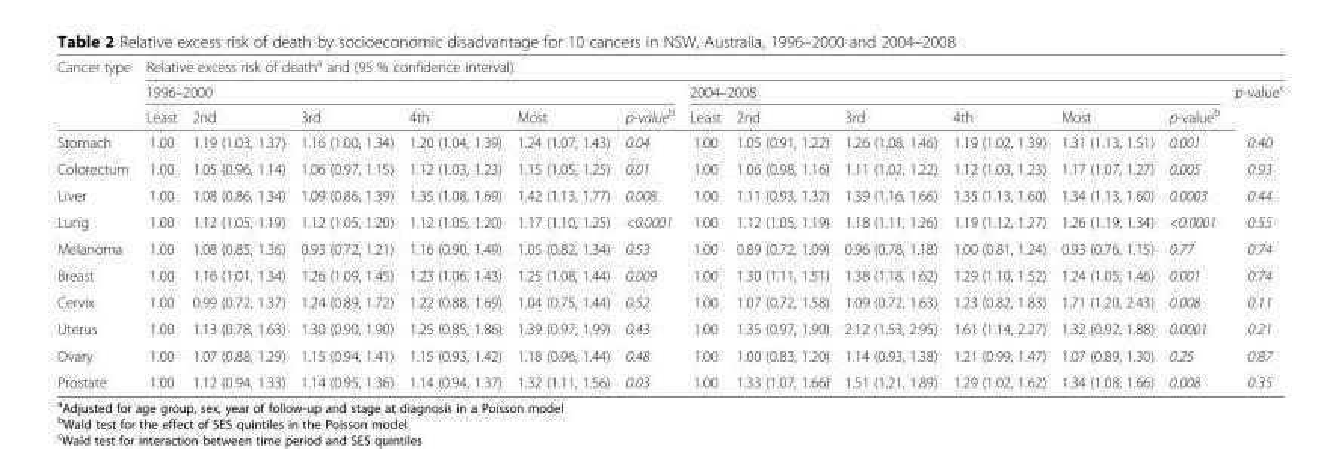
<table><thead><tr><td rowspan="3">Cancer type</td><td colspan="13">Relative excess risk of death<sup>a</sup> and (95 % confidence interval)</td></tr><tr><td colspan="6">1996–2000</td><td colspan="6">2004–2008</td><td rowspan="2">p-value<sup>c</sup></td></tr><tr><td>Least</td><td>2nd</td><td>3rd</td><td>4th</td><td>Most</td><td>p-value<sup>b</sup></td><td>Least</td><td>2nd</td><td>3rd</td><td>4th</td><td>Most</td><td>p-value<sup>b</sup></td></tr></thead><tbody><tr><td>Stomach</td><td>1.00</td><td>1.19 (1.03, 1.37)</td><td>1.16 (1.00, 1.34)</td><td>1.20 (1.04, 1.39)</td><td>1.24 (1.07, 1.43)</td><td>0.04</td><td>1.00</td><td>1.05 (0.91, 1.22)</td><td>1.26 (1.08, 1.46)</td><td>1.19 (1.02, 1.39)</td><td>1.31 (1.13, 1.51)</td><td>0.001</td><td>0.40</td></tr><tr><td>Colorectum</td><td>1.00</td><td>1.05 (0.96, 1.14)</td><td>1.06 (0.97, 1.15)</td><td>1.12 (1.03, 1.23)</td><td>1.15 (1.05, 1.25)</td><td>0.01</td><td>1.00</td><td>1.06 (0.98, 1.16)</td><td>1.11 (1.02, 1.22)</td><td>1.12 (1.03, 1.23)</td><td>1.17 (1.07, 1.27)</td><td>0.005</td><td>0.93</td></tr><tr><td>Liver</td><td>1.00</td><td>1.08 (0.86, 1.34)</td><td>1.09 (0.86, 1.39)</td><td>1.35 (1.08, 1.69)</td><td>1.42 (1.13, 1.77)</td><td>0.008</td><td>1.00</td><td>1.11 (0.93, 1.32)</td><td>1.39 (1.16, 1.66)</td><td>1.35 (1.13, 1.60)</td><td>1.34 (1.13, 1.60)</td><td>0.0003</td><td>0.44</td></tr><tr><td>Lung</td><td>1.00</td><td>1.12 (1.05, 1.19)</td><td>1.12 (1.05, 1.20)</td><td>1.12 (1.05, 1.20)</td><td>1.17 (1.10, 1.25)</td><td>&lt;0.0001</td><td>1.00</td><td>1.12 (1.05, 1.19)</td><td>1.18 (1.11, 1.26)</td><td>1.19 (1.12, 1.27)</td><td>1.26 (1.19, 1.34)</td><td>&lt;0.0001</td><td>0.55</td></tr><tr><td>Melanoma</td><td>1.00</td><td>1.08 (0.85, 1.36)</td><td>0.93 (0.72, 1.21)</td><td>1.16 (0.90, 1.49)</td><td>1.05 (0.82, 1.34)</td><td>0.53</td><td>1.00</td><td>0.89 (0.72, 1.09)</td><td>0.96 (0.78, 1.18)</td><td>1.00 (0.81, 1.24)</td><td>0.93 (0.76, 1.15)</td><td>0.77</td><td>0.74</td></tr><tr><td>Breast</td><td>1.00</td><td>1.16 (1.01, 1.34)</td><td>1.26 (1.09, 1.45)</td><td>1.23 (1.06, 1.43)</td><td>1.25 (1.08, 1.44)</td><td>0.009</td><td>1.00</td><td>1.30 (1.11, 1.51)</td><td>1.38 (1.18, 1.62)</td><td>1.29 (1.10, 1.52)</td><td>1.24 (1.05, 1.46)</td><td>0.001</td><td>0.74</td></tr><tr><td>Cervix</td><td>1.00</td><td>0.99 (0.72, 1.37)</td><td>1.24 (0.89, 1.72)</td><td>1.22 (0.88, 1.69)</td><td>1.04 (0.75, 1.44)</td><td>0.52</td><td>1.00</td><td>1.07 (0.72, 1.58)</td><td>1.09 (0.72, 1.63)</td><td>1.23 (0.82, 1.83)</td><td>1.71 (1.20, 2.43)</td><td>0.008</td><td>0.11</td></tr><tr><td>Uterus</td><td>1.00</td><td>1.13 (0.78, 1.63)</td><td>1.30 (0.90, 1.90)</td><td>1.25 (0.85, 1.86)</td><td>1.39 (0.97, 1.99)</td><td>0.43</td><td>1.00</td><td>1.35 (0.97, 1.90)</td><td>2.12 (1.53, 2.95)</td><td>1.61 (1.14, 2.27)</td><td>1.32 (0.92, 1.88)</td><td>0.0001</td><td>0.21</td></tr><tr><td>Ovary</td><td>1.00</td><td>1.07 (0.88, 1.29)</td><td>1.15 (0.94, 1.41)</td><td>1.15 (0.93, 1.42)</td><td>1.18 (0.96, 1.44)</td><td>0.48</td><td>1.00</td><td>1.00 (0.83, 1.20)</td><td>1.14 (0.93, 1.38)</td><td>1.21 (0.99, 1.47)</td><td>1.07 (0.89, 1.30)</td><td>0.25</td><td>0.87</td></tr><tr><td>Prostate</td><td>1.00</td><td>1.12 (0.94, 1.33)</td><td>1.14 (0.95, 1.36)</td><td>1.14 (0.94, 1.37)</td><td>1.32 (1.11, 1.56)</td><td>0.03</td><td>1.00</td><td>1.33 (1.07, 1.66)</td><td>1.51 (1.21, 1.89)</td><td>1.29 (1.02, 1.62)</td><td>1.34 (1.08, 1.66)</td><td>0.008</td><td>0.35</td></tr></tbody></table>